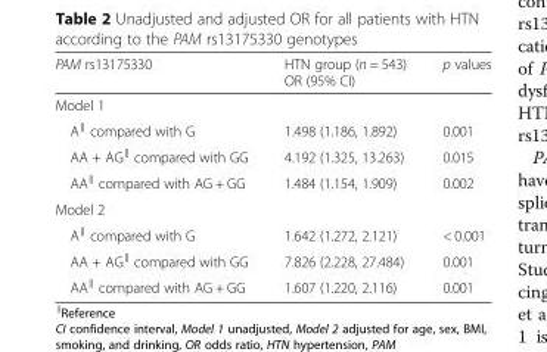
<table><thead><tr><td>PAM rs13175330</td><td>HTN group (n = 543) OR (95% CI)</td><td>p values</td></tr></thead><tbody><tr><td colspan="3">Model 1</td></tr><tr><td>A<sup>∥</sup> compared with G</td><td>1.498 (1.186, 1.892)</td><td>0.001</td></tr><tr><td>AA + AG<sup>∥</sup> compared with GG</td><td>4.192 (1.325, 13.263)</td><td>0.015</td></tr><tr><td>AA<sup>∥</sup> compared with AG + GG</td><td>1.484 (1.154, 1.909)</td><td>0.002</td></tr><tr><td colspan="3">Model 2</td></tr><tr><td>A<sup>∥</sup> compared with G</td><td>1.642 (1.272, 2.121)</td><td>&lt; 0.001</td></tr><tr><td>AA + AG<sup>∥</sup> compared with GG</td><td>7.826 (2.228, 27.484)</td><td>0.001</td></tr><tr><td>AA<sup>∥</sup> compared with AG + GG</td><td>1.607 (1.220, 2.116)</td><td>0.001</td></tr></tbody></table>